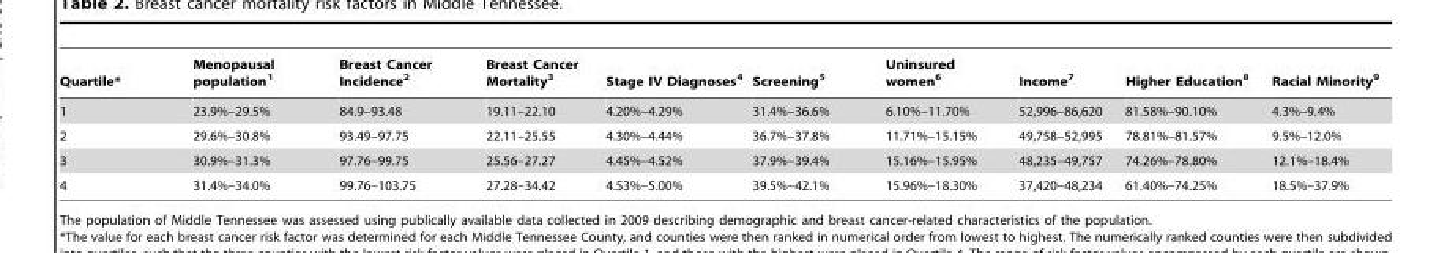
<table><thead><tr><td>Quartile*</td><td>Menopausal population<sup>1</sup></td><td>Breast Cancer Incidence<sup>2</sup></td><td>Breast Cancer Mortality<sup>3</sup></td><td>Stage IV Diagnoses<sup>4</sup></td><td>Screening<sup>5</sup></td><td>Uninsured women<sup>6</sup></td><td>Income<sup>7</sup></td><td>Higher Education<sup>8</sup></td><td>Racial Minority<sup>9</sup></td></tr></thead><tbody><tr><td>1</td><td>23.9%–29.5%</td><td>84.9–93.48</td><td>19.11–22.10</td><td>4.20%–4.29%</td><td>31.4%–36.6%</td><td>6.10%–11.70%</td><td>52,996–86,620</td><td>81.58%–90.10%</td><td>4.3%–9.4%</td></tr><tr><td>2</td><td>29.6%–30.8%</td><td>93.49–97.75</td><td>22.11–25.55</td><td>4.30%–4.44%</td><td>36.7%–37.8%</td><td>11.71%–15.15%</td><td>49,758–52,995</td><td>78.81%–81.57%</td><td>9.5%–12.0%</td></tr><tr><td>3</td><td>30.9%–31.3%</td><td>97.76–99.75</td><td>25.56–27.27</td><td>4.45%–4.52%</td><td>37.9%–39.4%</td><td>15.16%–15.95%</td><td>48,235–49,757</td><td>74.26%–78.80%</td><td>12.1%–18.4%</td></tr><tr><td>4</td><td>31.4%–34.0%</td><td>99.76–103.75</td><td>27.28–34.42</td><td>4.53%–5.00%</td><td>39.5%–42.1%</td><td>15.96%–18.30%</td><td>37,420–48,234</td><td>61.40%–74.25%</td><td>18.5%–37.9%</td></tr></tbody></table>